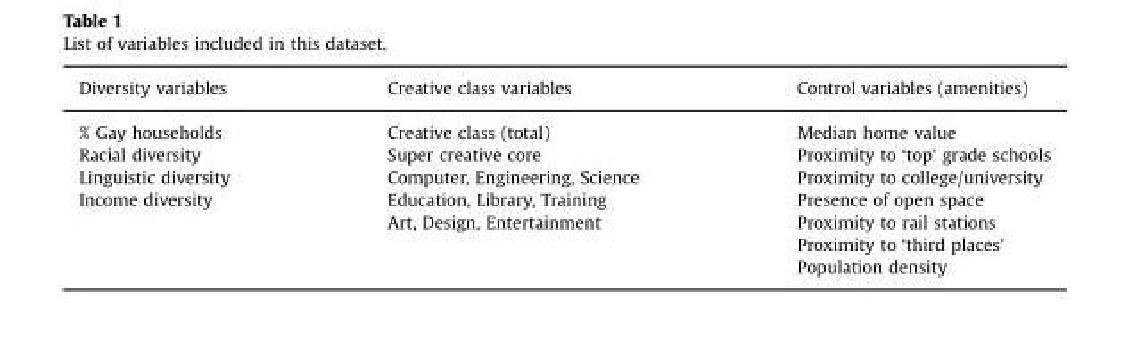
<table><thead><tr><td>Diversity variables</td><td>Creative class variables</td><td>Control variables (amenities)</td></tr></thead><tbody><tr><td>% Gay households</td><td>Creative class (total)</td><td>Median home value</td></tr><tr><td>Racial diversity</td><td>Super creative core</td><td>Proximity to ‘top’ grade schools</td></tr><tr><td>Linguistic diversity</td><td>Computer, Engineering, Science</td><td>Proximity to college/university</td></tr><tr><td rowspan="4">Income diversity</td><td>Education, Library, Training</td><td>Presence of open space</td></tr><tr><td>Art, Design, Entertainment</td><td>Proximity to rail stations</td></tr><tr><td></td><td>Proximity to ‘third places’</td></tr><tr><td></td><td>Population density</td></tr></tbody></table>